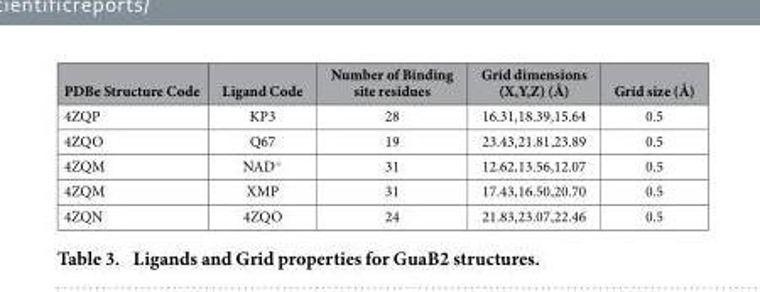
<table><thead><tr><td>PDBe Structure Code</td><td>Ligand Code</td><td>Number of Binding site residues</td><td>Grid dimensions (X,Y,Z) (Å)</td><td>Grid size (Å)</td></tr></thead><tbody><tr><td>4ZQP</td><td>KP3</td><td>28</td><td>16.31,18.39,15.64</td><td>0.5</td></tr><tr><td>4ZQO</td><td>Q67</td><td>19</td><td>23.43,21.81,23.89</td><td>0.5</td></tr><tr><td>4ZQM</td><td>NAD<sup>+</sup></td><td>31</td><td>12.62,13.56,12.07</td><td>0.5</td></tr><tr><td>4ZQM</td><td>XMP</td><td>31</td><td>17.43,16.50,20.70</td><td>0.5</td></tr><tr><td>4ZQN</td><td>4ZQO</td><td>24</td><td>21.83,23.07,22.46</td><td>0.5</td></tr></tbody></table>